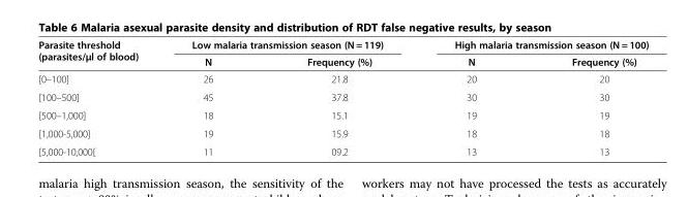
<table><thead><tr><td rowspan="2">Parasite threshold (parasites/μl of blood)</td><td colspan="2">Low malaria transmission season (N = 119)</td><td colspan="2">High malaria transmission season (N = 100)</td></tr><tr><td>N</td><td>Frequency (%)</td><td>N</td><td>Frequency (%)</td></tr></thead><tbody><tr><td>[0–100]</td><td>26</td><td>21.8</td><td>20</td><td>20</td></tr><tr><td>[100–500]</td><td>45</td><td>37.8</td><td>30</td><td>30</td></tr><tr><td>[500–1,000]</td><td>18</td><td>15.1</td><td>19</td><td>19</td></tr><tr><td>[1,000-5,000]</td><td>19</td><td>15.9</td><td>18</td><td>18</td></tr><tr><td>[5,000-10,000[</td><td>11</td><td>09.2</td><td>13</td><td>13</td></tr></tbody></table>